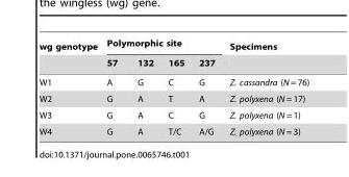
<table><thead><tr><td rowspan="2">wg genotype</td><td colspan="4">Polymorphic site</td><td rowspan="2">Specimens</td></tr><tr><td>57</td><td>132</td><td>165</td><td>237</td></tr></thead><tbody><tr><td>W1</td><td>A</td><td>G</td><td>C</td><td>G</td><td>Z. cassandra (N = 76)</td></tr><tr><td>W2</td><td>G</td><td>A</td><td>T</td><td>A</td><td>Z. polyxena (N = 17)</td></tr><tr><td>W3</td><td>G</td><td>A</td><td>C</td><td>G</td><td>Z. polyxena (N = 1)</td></tr><tr><td>W4</td><td>G</td><td>A</td><td>T/C</td><td>A/G</td><td>Z. polyxena (N = 3)</td></tr></tbody></table>